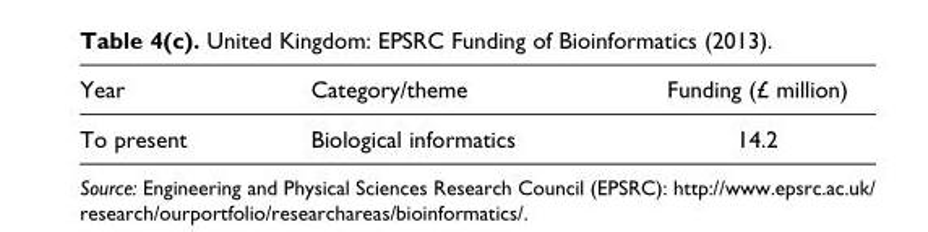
<table><thead><tr><td>Year</td><td>Category/theme</td><td>Funding (£ million)</td></tr></thead><tbody><tr><td>To present</td><td>Biological informatics</td><td>14.2</td></tr></tbody></table>